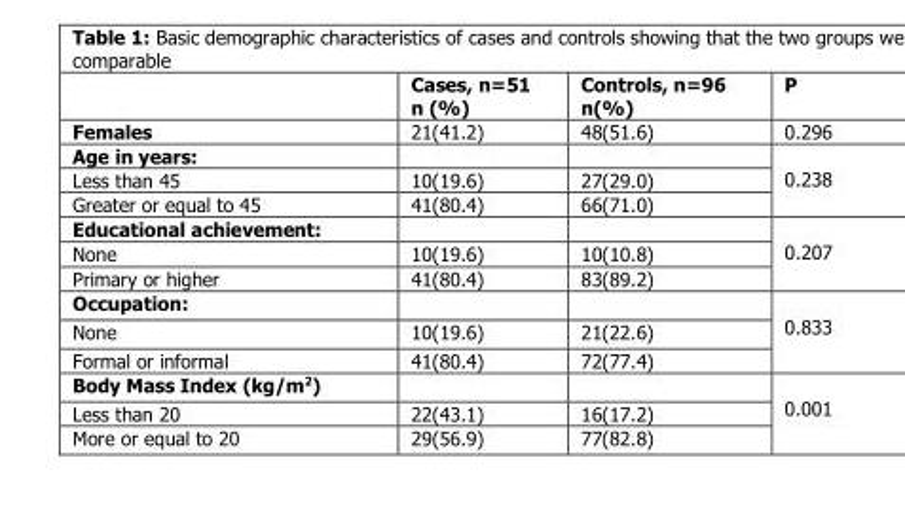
<table><thead><tr><td></td><td>Cases, n=51 n (%)</td><td>Controls, n=96 n(%)</td><td>P</td></tr></thead><tbody><tr><td>Females</td><td>21(41.2)</td><td>48(51.6)</td><td>0.296</td></tr><tr><td colspan="3">Age in years:</td><td rowspan="3">0.238</td></tr><tr><td>Less than 45</td><td>10(19.6)</td><td>27(29.0)</td></tr><tr><td>Greater or equal to 45</td><td>41(80.4)</td><td>66(71.0)</td></tr><tr><td colspan="3">Educational achievement:</td><td rowspan="3">0.207</td></tr><tr><td>None</td><td>10(19.6)</td><td>10(10.8)</td></tr><tr><td>Primary or higher</td><td>41(80.4)</td><td>83(89.2)</td></tr><tr><td colspan="3">Occupation:</td><td rowspan="3">0.833</td></tr><tr><td>None</td><td>10(19.6)</td><td>21(22.6)</td></tr><tr><td>Formal or informal</td><td>41(80.4)</td><td>72(77.4)</td></tr><tr><td colspan="3">Body Mass Index (kg/m<sup>2</sup>)</td><td rowspan="3">0.001</td></tr><tr><td>Less than 20</td><td>22(43.1)</td><td>16(17.2)</td></tr><tr><td>More or equal to 20</td><td>29(56.9)</td><td>77(82.8)</td></tr></tbody></table>